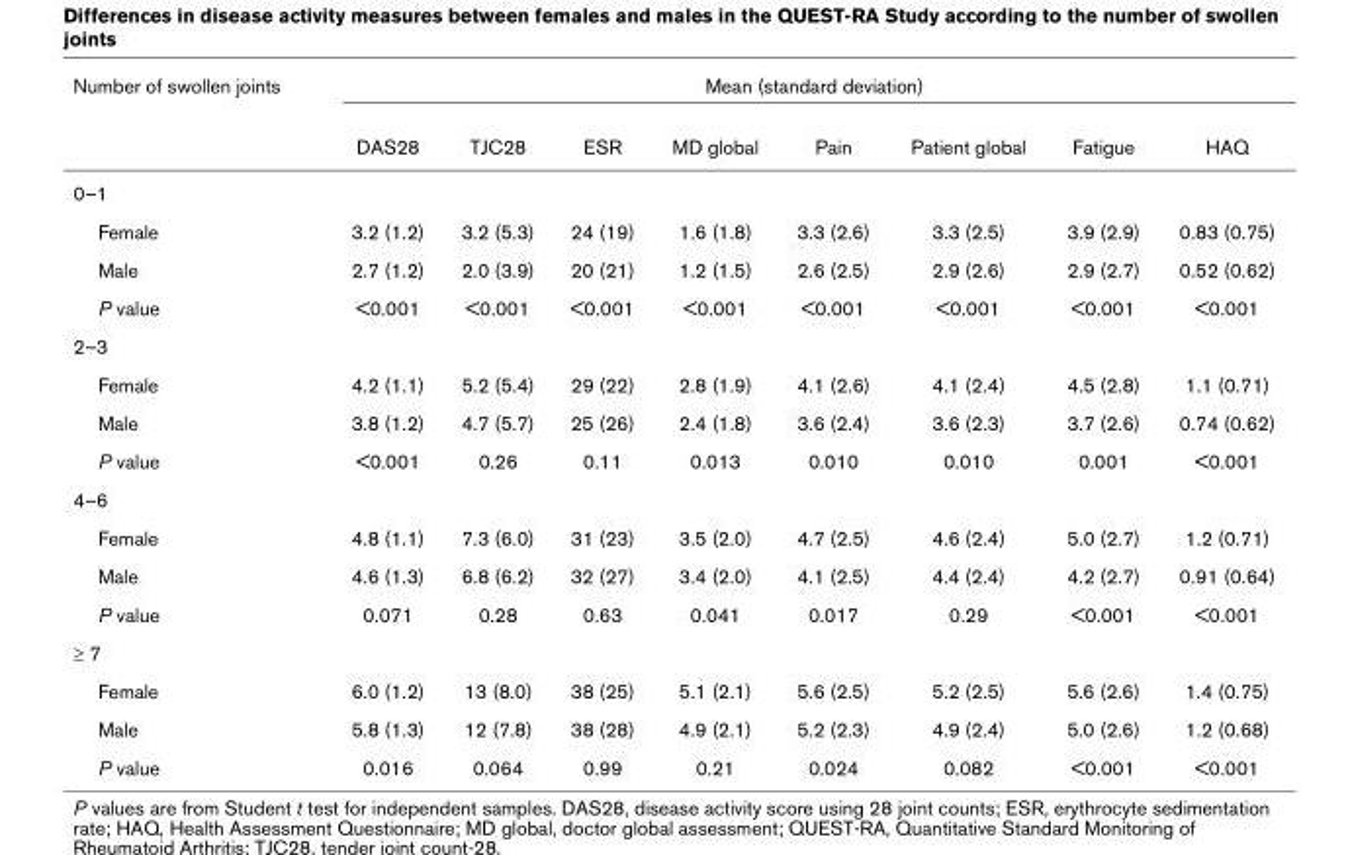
<table><thead><tr><td rowspan="2">Number of swollen joints</td><td colspan="8">Mean (standard deviation)</td></tr><tr><td>DAS28</td><td>TJC28</td><td>ESR</td><td>MD global</td><td>Pain</td><td>Patient global</td><td>Fatigue</td><td>HAQ</td></tr></thead><tbody><tr><td colspan="9">0–1</td></tr><tr><td>Female</td><td>3.2 (1.2)</td><td>3.2 (5.3)</td><td>24 (19)</td><td>1.6 (1.8)</td><td>3.3 (2.6)</td><td>3.3 (2.5)</td><td>3.9 (2.9)</td><td>0.83 (0.75)</td></tr><tr><td>Male</td><td>2.7 (1.2)</td><td>2.0 (3.9)</td><td>20 (21)</td><td>1.2 (1.5)</td><td>2.6 (2.5)</td><td>2.9 (2.6)</td><td>2.9 (2.7)</td><td>0.52 (0.62)</td></tr><tr><td>P value</td><td>&lt;0.001</td><td>&lt;0.001</td><td>&lt;0.001</td><td>&lt;0.001</td><td>&lt;0.001</td><td>&lt;0.001</td><td>&lt;0.001</td><td>&lt;0.001</td></tr><tr><td colspan="9">2–3</td></tr><tr><td>Female</td><td>4.2 (1.1)</td><td>5.2 (5.4)</td><td>29 (22)</td><td>2.8 (1.9)</td><td>4.1 (2.6)</td><td>4.1 (2.4)</td><td>4.5 (2.8)</td><td>1.1 (0.71)</td></tr><tr><td>Male</td><td>3.8 (1.2)</td><td>4.7 (5.7)</td><td>25 (26)</td><td>2.4 (1.8)</td><td>3.6 (2.4)</td><td>3.6 (2.3)</td><td>3.7 (2.6)</td><td>0.74 (0.62)</td></tr><tr><td>P value</td><td>&lt;0.001</td><td>0.26</td><td>0.11</td><td>0.013</td><td>0.010</td><td>0.010</td><td>0.001</td><td>&lt;0.001</td></tr><tr><td colspan="9">4–6</td></tr><tr><td>Female</td><td>4.8 (1.1)</td><td>7.3 (6.0)</td><td>31 (23)</td><td>3.5 (2.0)</td><td>4.7 (2.5)</td><td>4.6 (2.4)</td><td>5.0 (2.7)</td><td>1.2 (0.71)</td></tr><tr><td>Male</td><td>4.6 (1.3)</td><td>6.8 (6.2)</td><td>32 (27)</td><td>3.4 (2.0)</td><td>4.1 (2.5)</td><td>4.4 (2.4)</td><td>4.2 (2.7)</td><td>0.91 (0.64)</td></tr><tr><td>P value</td><td>0.071</td><td>0.28</td><td>0.63</td><td>0.041</td><td>0.017</td><td>0.29</td><td>&lt;0.001</td><td>&lt;0.001</td></tr><tr><td colspan="9">≥ 7</td></tr><tr><td>Female</td><td>6.0 (1.2)</td><td>13 (8.0)</td><td>38 (25)</td><td>5.1 (2.1)</td><td>5.6 (2.5)</td><td>5.2 (2.5)</td><td>5.6 (2.6)</td><td>1.4 (0.75)</td></tr><tr><td>Male</td><td>5.8 (1.3)</td><td>12 (7.8)</td><td>38 (28)</td><td>4.9 (2.1)</td><td>5.2 (2.3)</td><td>4.9 (2.4)</td><td>5.0 (2.6)</td><td>1.2 (0.68)</td></tr><tr><td>P value</td><td>0.016</td><td>0.064</td><td>0.99</td><td>0.21</td><td>0.024</td><td>0.082</td><td>&lt;0.001</td><td>&lt;0.001</td></tr></tbody></table>